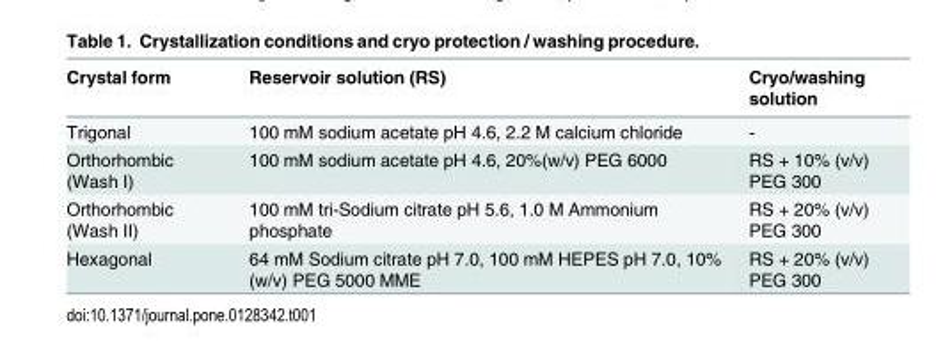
<table><thead><tr><td>Crystal form</td><td>Reservoir solution (RS)</td><td>Cryo/washing solution</td></tr></thead><tbody><tr><td>Trigonal</td><td>100 mM sodium acetate pH 4.6, 2.2 M calcium chloride</td><td>-</td></tr><tr><td>Orthorhombic (Wash I)</td><td>100 mM sodium acetate pH 4.6, 20%(w/v) PEG 6000</td><td>RS + 10% (v/v) PEG 300</td></tr><tr><td>Orthorhombic (Wash II)</td><td>100 mM tri-Sodium citrate pH 5.6, 1.0 M Ammonium phosphate</td><td>RS + 20% (v/v) PEG 300</td></tr><tr><td>Hexagonal</td><td>64 mM Sodium citrate pH 7.0, 100 mM HEPES pH 7.0, 10% (w/v) PEG 5000 MME</td><td>RS + 20% (v/v) PEG 300</td></tr></tbody></table>